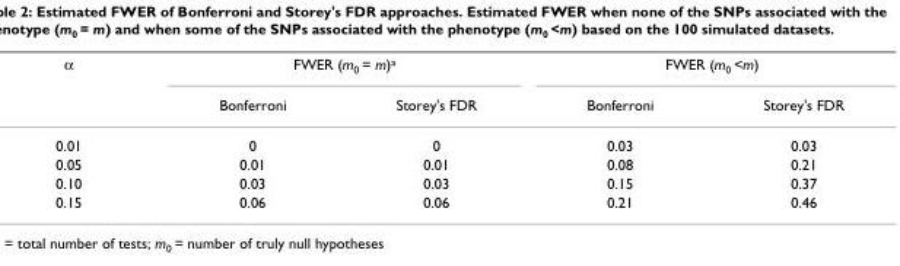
<table><thead><tr><td rowspan="2">α</td><td colspan="2">FWER (m0 = m)a</td><td colspan="2">FWER (m0 &lt;m)</td></tr><tr><td>Bonferroni</td><td>Storey&#x27;s FDR</td><td>Bonferroni</td><td>Storey&#x27;s FDR</td></tr></thead><tbody><tr><td>0.01</td><td>0</td><td>0</td><td>0.03</td><td>0.03</td></tr><tr><td>0.05</td><td>0.01</td><td>0.01</td><td>0.08</td><td>0.21</td></tr><tr><td>0.10</td><td>0.03</td><td>0.03</td><td>0.15</td><td>0.37</td></tr><tr><td>0.15</td><td>0.06</td><td>0.06</td><td>0.21</td><td>0.46</td></tr></tbody></table>